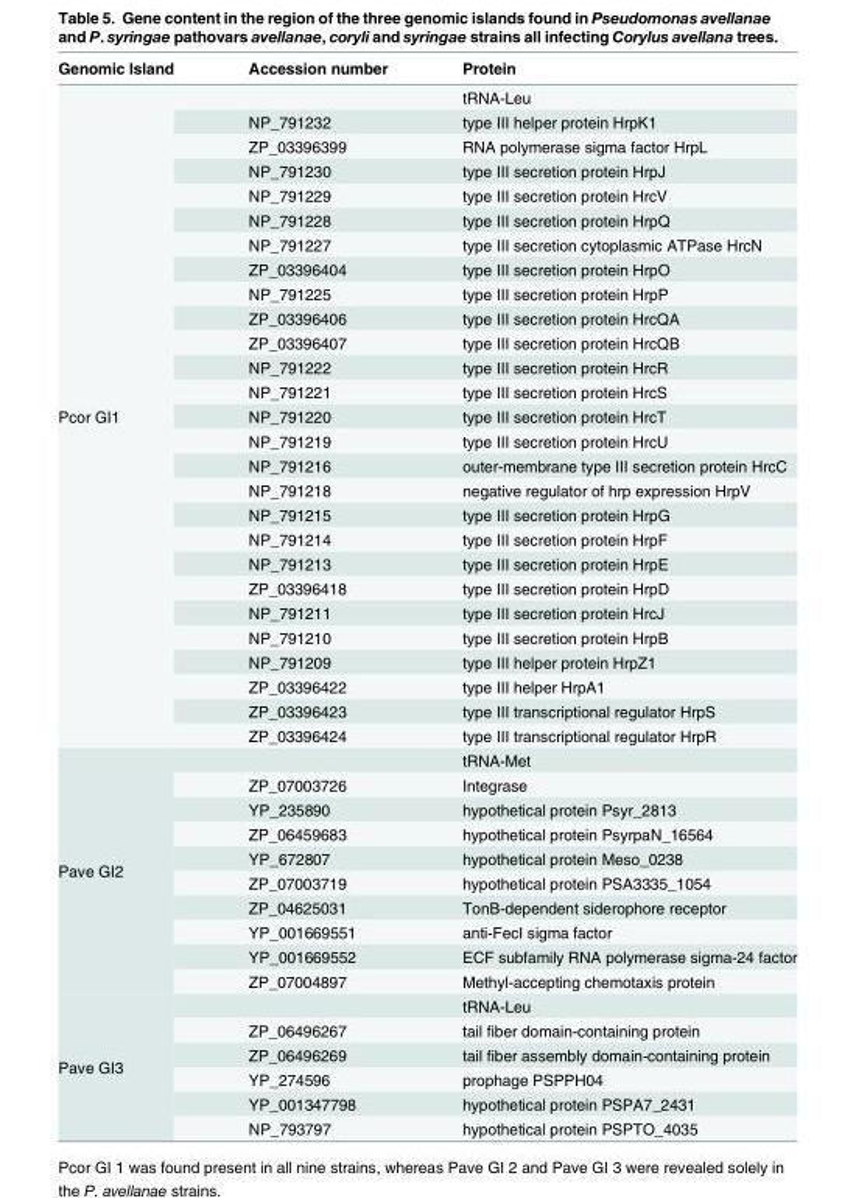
<table><thead><tr><td>Genomic Island</td><td>Accession number</td><td>Protein</td></tr></thead><tbody><tr><td rowspan="27">Pcor GI1</td><td></td><td>tRNA-Leu</td></tr><tr><td>NP_791232</td><td>type III helper protein HrpK1</td></tr><tr><td>ZP_03396399</td><td>RNA polymerase sigma factor HrpL</td></tr><tr><td>NP_791230</td><td>type III secretion protein HrpJ</td></tr><tr><td>NP_791229</td><td>type III secretion protein HrcV</td></tr><tr><td>NP_791228</td><td>type III secretion protein HrpQ</td></tr><tr><td>NP_791227</td><td>type III secretion cytoplasmic ATPase HrcN</td></tr><tr><td>ZP_03396404</td><td>type III secretion protein HrpO</td></tr><tr><td>NP_791225</td><td>type III secretion protein HrpP</td></tr><tr><td>ZP_03396406</td><td>type III secretion protein HrcQA</td></tr><tr><td>ZP_03396407</td><td>type III secretion protein HrcQB</td></tr><tr><td>NP_791222</td><td>type III secretion protein HrcR</td></tr><tr><td>NP_791221</td><td>type III secretion protein HrcS</td></tr><tr><td>NP_791220</td><td>type III secretion protein HrcT</td></tr><tr><td>NP_791219</td><td>type III secretion protein HrcU</td></tr><tr><td>NP_791216</td><td>outer-membrane type III secretion protein HrcC</td></tr><tr><td>NP_791218</td><td>negative regulator of hrp expression HrpV</td></tr><tr><td>NP_791215</td><td>type III secretion protein HrpG</td></tr><tr><td>NP_791214</td><td>type III secretion protein HrpF</td></tr><tr><td>NP_791213</td><td>type III secretion protein HrpE</td></tr><tr><td>ZP_03396418</td><td>type III secretion protein HrpD</td></tr><tr><td>NP_791211</td><td>type III secretion protein HrcJ</td></tr><tr><td>NP_791210</td><td>type III secretion protein HrpB</td></tr><tr><td>NP_791209</td><td>type III helper protein HrpZ1</td></tr><tr><td>ZP_03396422</td><td>type III helper HrpA1</td></tr><tr><td>ZP_03396423</td><td>type III transcriptional regulator HrpS</td></tr><tr><td>ZP_03396424</td><td>type III transcriptional regulator HrpR</td></tr><tr><td rowspan="10">Pave GI2</td><td></td><td>tRNA-Met</td></tr><tr><td>ZP_07003726</td><td>Integrase</td></tr><tr><td>YP_235890</td><td>hypothetical protein Psyr_2813</td></tr><tr><td>ZP_06459683</td><td>hypothetical protein PsyrpaN_16564</td></tr><tr><td>YP_672807</td><td>hypothetical protein Meso_0238</td></tr><tr><td>ZP_07003719</td><td>hypothetical protein PSA3335_1054</td></tr><tr><td>ZP_04625031</td><td>TonB-dependent siderophore receptor</td></tr><tr><td>YP_001669551</td><td>anti-FecI sigma factor</td></tr><tr><td>YP_001669552</td><td>ECF subfamily RNA polymerase sigma-24 factor</td></tr><tr><td>ZP_07004897</td><td>Methyl-accepting chemotaxis protein</td></tr><tr><td rowspan="6">Pave GI3</td><td></td><td>tRNA-Leu</td></tr><tr><td>ZP_06496267</td><td>tail fiber domain-containing protein</td></tr><tr><td>ZP_06496269</td><td>tail fiber assembly domain-containing protein</td></tr><tr><td>YP_274596</td><td>prophage PSPPH04</td></tr><tr><td>YP_001347798</td><td>hypothetical protein PSPA7_2431</td></tr><tr><td>NP_793797</td><td>hypothetical protein PSPTO_4035</td></tr></tbody></table>